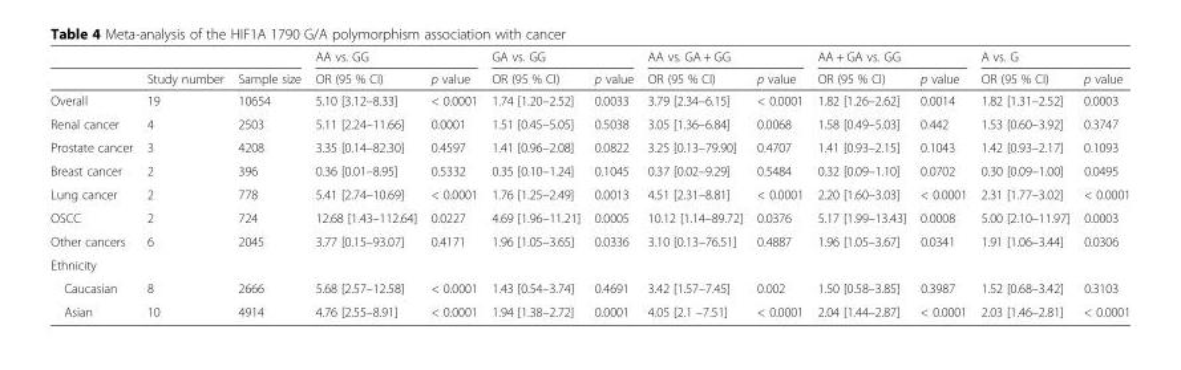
<table><thead><tr><td rowspan="2"></td><td rowspan="2">Study number</td><td rowspan="2">Sample size</td><td colspan="2">AA vs. GG</td><td colspan="2">GA vs. GG</td><td colspan="2">AA vs. GA + GG</td><td colspan="2">AA + GA vs. GG</td><td colspan="2">A vs. G</td></tr><tr><td>OR (95 % CI)</td><td>p value</td><td>OR (95 % CI)</td><td>p value</td><td>OR (95 % CI)</td><td>p value</td><td>OR (95 % CI)</td><td>p value</td><td>OR (95 % CI)</td><td>p value</td></tr></thead><tbody><tr><td>Overall</td><td>19</td><td>10654</td><td>5.10 [3.12–8.33]</td><td>&lt; 0.0001</td><td>1.74 [1.20–2.52]</td><td>0.0033</td><td>3.79 [2.34–6.15]</td><td>&lt; 0.0001</td><td>1.82 [1.26–2.62]</td><td>0.0014</td><td>1.82 [1.31–2.52]</td><td>0.0003</td></tr><tr><td>Renal cancer</td><td>4</td><td>2503</td><td>5.11 [2.24–11.66]</td><td>0.0001</td><td>1.51 [0.45–5.05]</td><td>0.5038</td><td>3.05 [1.36–6.84]</td><td>0.0068</td><td>1.58 [0.49–5.03]</td><td>0.442</td><td>1.53 [0.60–3.92]</td><td>0.3747</td></tr><tr><td>Prostate cancer</td><td>3</td><td>4208</td><td>3.35 [0.14–82.30]</td><td>0.4597</td><td>1.41 [0.96–2.08]</td><td>0.0822</td><td>3.25 [0.13–79.90]</td><td>0.4707</td><td>1.41 [0.93–2.15]</td><td>0.1043</td><td>1.42 [0.93–2.17]</td><td>0.1093</td></tr><tr><td>Breast cancer</td><td>2</td><td>396</td><td>0.36 [0.01–8.95]</td><td>0.5332</td><td>0.35 [0.10–1.24]</td><td>0.1045</td><td>0.37 [0.02–9.29]</td><td>0.5484</td><td>0.32 [0.09–1.10]</td><td>0.0702</td><td>0.30 [0.09–1.00]</td><td>0.0495</td></tr><tr><td>Lung cancer</td><td>2</td><td>778</td><td>5.41 [2.74–10.69]</td><td>&lt; 0.0001</td><td>1.76 [1.25–2.49]</td><td>0.0013</td><td>4.51 [2.31–8.81]</td><td>&lt; 0.0001</td><td>2.20 [1.60–3.03]</td><td>&lt; 0.0001</td><td>2.31 [1.77–3.02]</td><td>&lt; 0.0001</td></tr><tr><td>OSCC</td><td>2</td><td>724</td><td>12.68 [1.43–112.64]</td><td>0.0227</td><td>4.69 [1.96–11.21]</td><td>0.0005</td><td>10.12 [1.14–89.72]</td><td>0.0376</td><td>5.17 [1.99–13.43]</td><td>0.0008</td><td>5.00 [2.10–11.97]</td><td>0.0003</td></tr><tr><td>Other cancers</td><td>6</td><td>2045</td><td>3.77 [0.15–93.07]</td><td>0.4171</td><td>1.96 [1.05–3.65]</td><td>0.0336</td><td>3.10 [0.13–76.51]</td><td>0.4887</td><td>1.96 [1.05–3.67]</td><td>0.0341</td><td>1.91 [1.06–3.44]</td><td>0.0306</td></tr><tr><td colspan="13">Ethnicity</td></tr><tr><td>Caucasian</td><td>8</td><td>2666</td><td>5.68 [2.57–12.58]</td><td>&lt; 0.0001</td><td>1.43 [0.54–3.74]</td><td>0.4691</td><td>3.42 [1.57–7.45]</td><td>0.002</td><td>1.50 [0.58–3.85]</td><td>0.3987</td><td>1.52 [0.68–3.42]</td><td>0.3103</td></tr><tr><td>Asian</td><td>10</td><td>4914</td><td>4.76 [2.55–8.91]</td><td>&lt; 0.0001</td><td>1.94 [1.38–2.72]</td><td>0.0001</td><td>4.05 [2.1 –7.51]</td><td>&lt; 0.0001</td><td>2.04 [1.44–2.87]</td><td>&lt; 0.0001</td><td>2.03 [1.46–2.81]</td><td>&lt; 0.0001</td></tr></tbody></table>